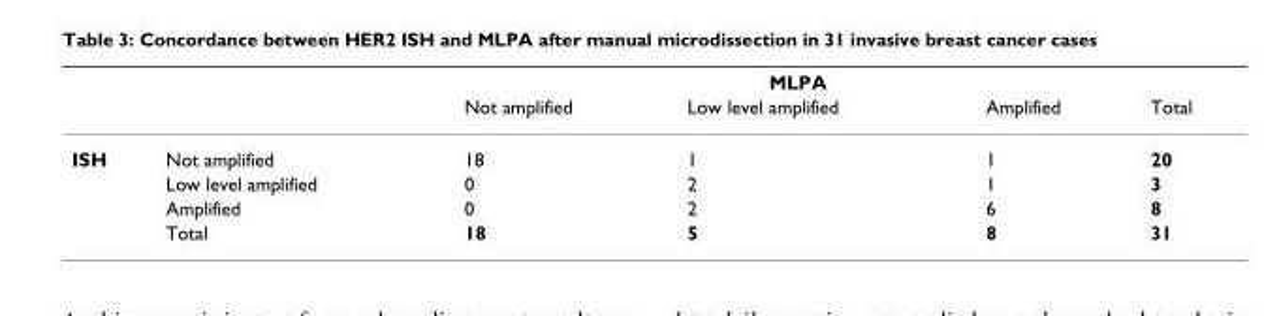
<table><thead><tr><td rowspan="2"></td><td rowspan="2"></td><td colspan="3">MLPA</td><td rowspan="2">Total</td></tr><tr><td>Not amplified</td><td>Low level amplified</td><td>Amplified</td></tr></thead><tbody><tr><td rowspan="4">ISH</td><td>Not amplified</td><td>18</td><td>1</td><td>1</td><td>20</td></tr><tr><td>Low level amplified</td><td>0</td><td>2</td><td>1</td><td>3</td></tr><tr><td>Amplified</td><td>0</td><td>2</td><td>6</td><td>8</td></tr><tr><td>Total</td><td>18</td><td>5</td><td>8</td><td>31</td></tr></tbody></table>